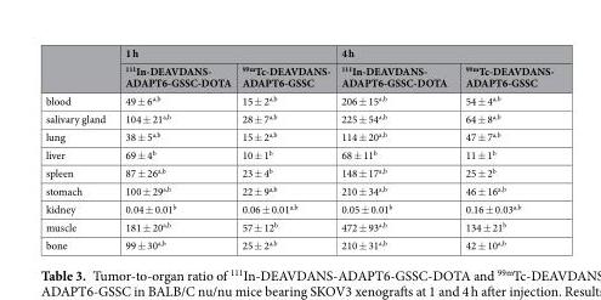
<table><thead><tr><td rowspan="2"></td><td colspan="2">1 h</td><td colspan="2">4 h</td></tr><tr><td><sup>111</sup>In-DEAVDANS- ADAPT6-GSSC-DOTA</td><td><sup>99m</sup>Tc-DEAVDANS- ADAPT6-GSSC</td><td><sup>111</sup>In-DEAVDANS- ADAPT6-GSSC-DOTA</td><td><sup>99m</sup>Tc-DEAVDANS- ADAPT6-GSSC</td></tr></thead><tbody><tr><td>blood</td><td>49 ± 6<sup>a,b</sup></td><td>15 ± 2<sup>a,b</sup></td><td>206 ± 15<sup>a,b</sup></td><td>54 ± 4<sup>a,b</sup></td></tr><tr><td>salivary gland</td><td>104 ± 21<sup>a,b</sup></td><td>28 ± 7<sup>a,b</sup></td><td>225 ± 54<sup>a,b</sup></td><td>64 ± 8<sup>a,b</sup></td></tr><tr><td>lung</td><td>38 ± 5<sup>a,b</sup></td><td>15 ± 2<sup>a,b</sup></td><td>114 ± 20<sup>a,b</sup></td><td>47 ± 7<sup>a,b</sup></td></tr><tr><td>liver</td><td>69 ± 4<sup>b</sup></td><td>10 ± 1<sup>b</sup></td><td>68 ± 11<sup>b</sup></td><td>11 ± 1<sup>b</sup></td></tr><tr><td>spleen</td><td>87 ± 26<sup>a,b</sup></td><td>23 ± 4<sup>b</sup></td><td>148 ± 17<sup>a,b</sup></td><td>25 ± 2<sup>b</sup></td></tr><tr><td>stomach</td><td>100 ± 29<sup>a,b</sup></td><td>22 ± 9<sup>a,b</sup></td><td>210 ± 34<sup>a,b</sup></td><td>46 ± 16<sup>a,b</sup></td></tr><tr><td>kidney</td><td>0.04 ± 0.01<sup>b</sup></td><td>0.06 ± 0.01<sup>a,b</sup></td><td>0.05 ± 0.01<sup>b</sup></td><td>0.16 ± 0.03<sup>a,b</sup></td></tr><tr><td>muscle</td><td>181 ± 20<sup>a,b</sup></td><td>57 ± 12<sup>b</sup></td><td>472 ± 93<sup>a,b</sup></td><td>134 ± 21<sup>b</sup></td></tr><tr><td>bone</td><td>99 ± 30<sup>a,b</sup></td><td>25 ± 2<sup>a,b</sup></td><td>210 ± 31<sup>a,b</sup></td><td>42 ± 10<sup>a,b</sup></td></tr></tbody></table>